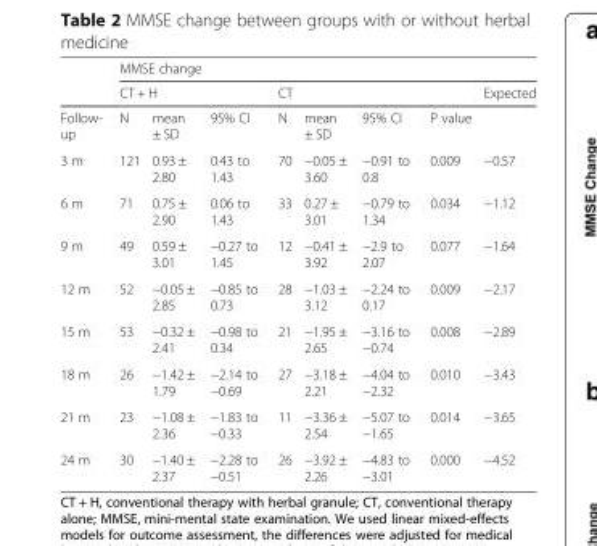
<table><thead><tr><td rowspan="3">Follow- up</td><td colspan="8">MMSE change</td></tr><tr><td colspan="3">CT + H</td><td colspan="3">CT</td><td rowspan="2">P value</td><td rowspan="2">Expected</td></tr><tr><td>N</td><td>mean ± SD</td><td>95% CI</td><td>N</td><td>mean ± SD</td><td>95% CI</td></tr></thead><tbody><tr><td>3 m</td><td>121</td><td>0.93 ± 2.80</td><td>0.43 to 1.43</td><td>70</td><td>−0.05 ± 3.60</td><td>−0.91 to 0.8</td><td>0.009</td><td>−0.57</td></tr><tr><td>6 m</td><td>71</td><td>0.75 ± 2.90</td><td>0.06 to 1.43</td><td>33</td><td>0.27 ± 3.01</td><td>−0.79 to 1.34</td><td>0.034</td><td>−1.12</td></tr><tr><td>9 m</td><td>49</td><td>0.59 ± 3.01</td><td>−0.27 to 1.45</td><td>12</td><td>−0.41 ± 3.92</td><td>−2.9 to 2.07</td><td>0.077</td><td>−1.64</td></tr><tr><td>12 m</td><td>52</td><td>−0.05 ± 2.85</td><td>−0.85 to 0.73</td><td>28</td><td>−1.03 ± 3.12</td><td>−2.24 to 0.17</td><td>0.009</td><td>−2.17</td></tr><tr><td>15 m</td><td>53</td><td>−0.32 ± 2.41</td><td>−0.98 to 0.34</td><td>21</td><td>−1.95 ± 2.65</td><td>−3.16 to −0.74</td><td>0.008</td><td>−2.89</td></tr><tr><td>18 m</td><td>26</td><td>−1.42 ± 1.79</td><td>−2.14 to −0.69</td><td>27</td><td>−3.18 ± 2.21</td><td>−4.04 to −2.32</td><td>0.010</td><td>−3.43</td></tr><tr><td>21 m</td><td>23</td><td>−1.08 ± 2.36</td><td>−1.83 to −0.33</td><td>11</td><td>−3.36 ± 2.54</td><td>−5.07 to −1.65</td><td>0.014</td><td>−3.65</td></tr><tr><td>24 m</td><td>30</td><td>−1.40 ± 2.37</td><td>−2.28 to −0.51</td><td>26</td><td>−3.92 ± 2.26</td><td>−4.83 to −3.01</td><td>0.000</td><td>−4.52</td></tr></tbody></table>